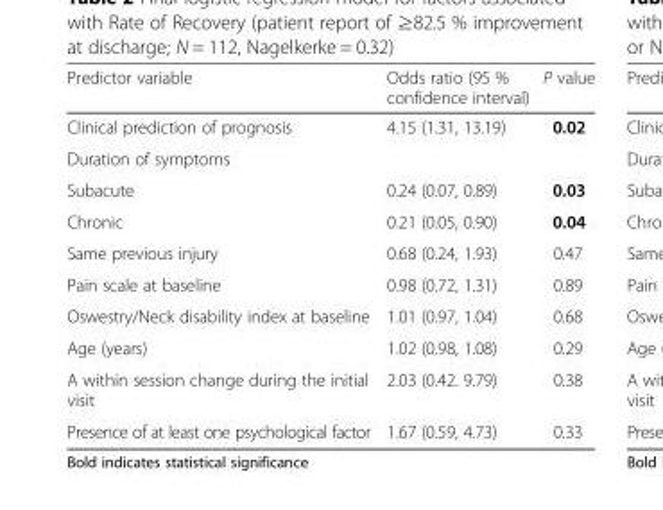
<table><thead><tr><td>Predictor variable</td><td>Odds ratio (95 % confidence interval)</td><td>P value</td></tr></thead><tbody><tr><td>Clinical prediction of prognosis</td><td>4.15 (1.31, 13.19)</td><td>0.02</td></tr><tr><td colspan="3">Duration of symptoms</td></tr><tr><td>Subacute</td><td>0.24 (0.07, 0.89)</td><td>0.03</td></tr><tr><td>Chronic</td><td>0.21 (0.05, 0.90)</td><td>0.04</td></tr><tr><td>Same previous injury</td><td>0.68 (0.24, 1.93)</td><td>0.47</td></tr><tr><td>Pain scale at baseline</td><td>0.98 (0.72, 1.31)</td><td>0.89</td></tr><tr><td>Oswestry/Neck disability index at baseline</td><td>1.01 (0.97, 1.04)</td><td>0.68</td></tr><tr><td>Age (years)</td><td>1.02 (0.98, 1.08)</td><td>0.29</td></tr><tr><td>A within session change during the initial visit</td><td>2.03 (0.42. 9.79)</td><td>0.38</td></tr><tr><td>Presence of at least one psychological factor</td><td>1.67 (0.59, 4.73)</td><td>0.33</td></tr></tbody></table>